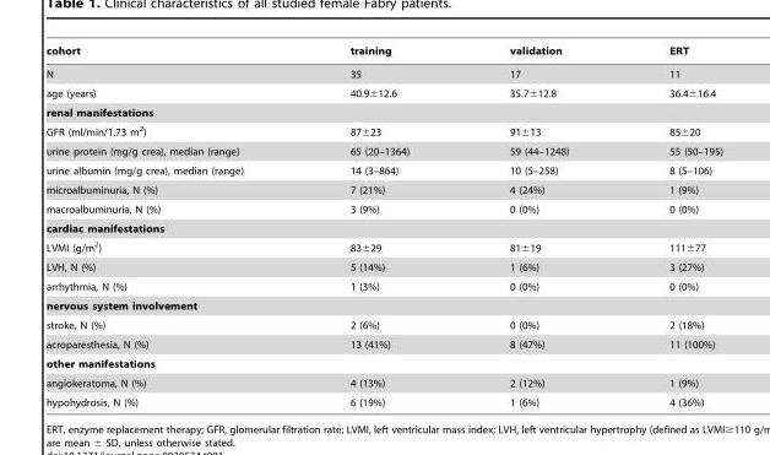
<table><thead><tr><td>cohort</td><td>training</td><td>validation</td><td>ERT</td></tr></thead><tbody><tr><td>N</td><td>35</td><td>17</td><td>11</td></tr><tr><td>age (years)</td><td>40.9±12.6</td><td>35.7±12.8</td><td>36.4±16.4</td></tr><tr><td colspan="4">renal manifestations</td></tr><tr><td>GFR (ml/min/1.73 m<sup>2</sup>)</td><td>87±23</td><td>91±13</td><td>85±20</td></tr><tr><td>urine protein (mg/g crea), median (range)</td><td>65 (20–1364)</td><td>59 (44–1248)</td><td>55 (50–195)</td></tr><tr><td>urine albumin (mg/g crea), median (range)</td><td>14 (3–864)</td><td>10 (5–258)</td><td>8 (5–106)</td></tr><tr><td>microalbuminuria, N (%)</td><td>7 (21%)</td><td>4 (24%)</td><td>1 (9%)</td></tr><tr><td>macroalbuminuria, N (%)</td><td>3 (9%)</td><td>0 (0%)</td><td>0 (0%)</td></tr><tr><td colspan="4">cardiac manifestations</td></tr><tr><td>LVMI (g/m<sup>2</sup>)</td><td>83±29</td><td>81±19</td><td>111±77</td></tr><tr><td>LVH, N (%)</td><td>5 (14%)</td><td>1 (6%)</td><td>3 (27%)</td></tr><tr><td>arrhythmia, N (%)</td><td>1 (3%)</td><td>0 (0%)</td><td>0 (0%)</td></tr><tr><td colspan="4">nervous system involvement</td></tr><tr><td>stroke, N (%)</td><td>2 (6%)</td><td>0 (0%)</td><td>2 (18%)</td></tr><tr><td>acroparesthesia, N (%)</td><td>13 (41%)</td><td>8 (47%)</td><td>11 (100%)</td></tr><tr><td colspan="4">other manifestations</td></tr><tr><td>angiokeratoma, N (%)</td><td>4 (13%)</td><td>2 (12%)</td><td>1 (9%)</td></tr><tr><td>hypohydrosis, N (%)</td><td>6 (19%)</td><td>1 (6%)</td><td>4 (36%)</td></tr></tbody></table>